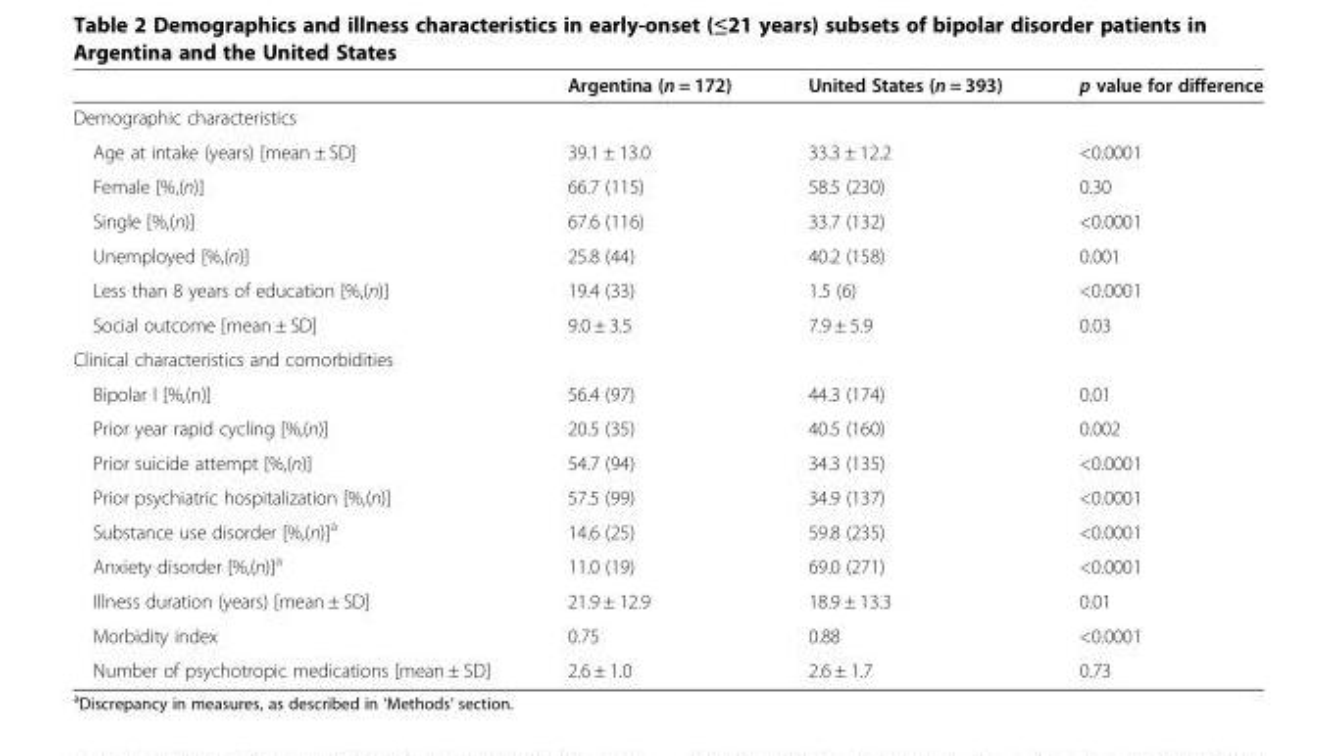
<table><thead><tr><td></td><td>Argentina (n = 172)</td><td>United States (n = 393)</td><td>p value for difference</td></tr></thead><tbody><tr><td colspan="4">Demographic characteristics</td></tr><tr><td>Age at intake (years) [mean ± SD]</td><td>39.1 ± 13.0</td><td>33.3 ± 12.2</td><td>&lt;0.0001</td></tr><tr><td>Female [%,(n)]</td><td>66.7 (115)</td><td>58.5 (230)</td><td>0.30</td></tr><tr><td>Single [%,(n)]</td><td>67.6 (116)</td><td>33.7 (132)</td><td>&lt;0.0001</td></tr><tr><td>Unemployed [%,(n)]</td><td>25.8 (44)</td><td>40.2 (158)</td><td>0.001</td></tr><tr><td>Less than 8 years of education [%,(n)]</td><td>19.4 (33)</td><td>1.5 (6)</td><td>&lt;0.0001</td></tr><tr><td>Social outcome [mean ± SD]</td><td>9.0 ± 3.5</td><td>7.9 ± 5.9</td><td>0.03</td></tr><tr><td colspan="4">Clinical characteristics and comorbidities</td></tr><tr><td>Bipolar I [%,(n)]</td><td>56.4 (97)</td><td>44.3 (174)</td><td>0.01</td></tr><tr><td>Prior year rapid cycling [%,(n)]</td><td>20.5 (35)</td><td>40.5 (160)</td><td>0.002</td></tr><tr><td>Prior suicide attempt [%,(n)]</td><td>54.7 (94)</td><td>34.3 (135)</td><td>&lt;0.0001</td></tr><tr><td>Prior psychiatric hospitalization [%,(n)]</td><td>57.5 (99)</td><td>34.9 (137)</td><td>&lt;0.0001</td></tr><tr><td>Substance use disorder [%,(n)]<sup>a</sup></td><td>14.6 (25)</td><td>59.8 (235)</td><td>&lt;0.0001</td></tr><tr><td>Anxiety disorder [%,(n)]<sup>a</sup></td><td>11.0 (19)</td><td>69.0 (271)</td><td>&lt;0.0001</td></tr><tr><td>Illness duration (years) [mean ± SD]</td><td>21.9 ± 12.9</td><td>18.9 ± 13.3</td><td>0.01</td></tr><tr><td>Morbidity index</td><td>0.75</td><td>0.88</td><td>&lt;0.0001</td></tr><tr><td>Number of psychotropic medications [mean ± SD]</td><td>2.6 ± 1.0</td><td>2.6 ± 1.7</td><td>0.73</td></tr></tbody></table>